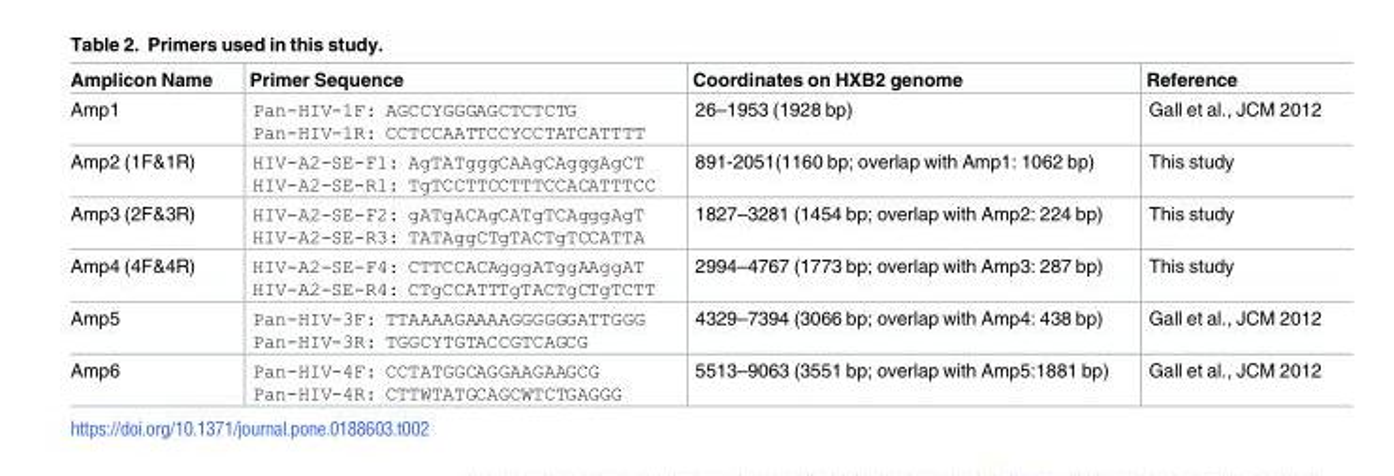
<table><thead><tr><td>Amplicon Name</td><td>Primer Sequence</td><td>Coordinates on HXB2 genome</td><td>Reference</td></tr></thead><tbody><tr><td>Amp1</td><td>Pan-HIV-1F: AGCCYGGGAGCTCTCTG Pan-HIV-1R: CCTCCAATTCCYCCTATCATTTT</td><td>26–1953 (1928 bp)</td><td>Gall et al., JCM 2012</td></tr><tr><td>Amp2 (1F&amp;1R)</td><td>HIV-A2-SE-F1: AgTATgggCAAgCAgggAgCT HIV-A2-SE-R1: TgTCCTTCCTTTCCACATTTCC</td><td>891-2051(1160 bp; overlap with Amp1: 1062 bp)</td><td>This study</td></tr><tr><td>Amp3 (2F&amp;3R)</td><td>HIV-A2-SE-F2: gATgACAgCATgTCAgggAgT HIV-A2-SE-R3: TATAggCTgTACTgTCCATTA</td><td>1827–3281 (1454 bp; overlap with Amp2: 224 bp)</td><td>This study</td></tr><tr><td>Amp4 (4F&amp;4R)</td><td>HIV-A2-SE-F4: CTTCCACAgggATggAAggAT HIV-A2-SE-R4: CTgCCATTTgTACTgCTgTCTT</td><td>2994–4767 (1773 bp; overlap with Amp3: 287 bp)</td><td>This study</td></tr><tr><td>Amp5</td><td>Pan-HIV-3F: TTAAAAGAAAAGGGGGGATTGGG Pan-HIV-3R: TGGCYTGTACCGTCAGCG</td><td>4329–7394 (3066 bp; overlap with Amp4: 438 bp)</td><td>Gall et al., JCM 2012</td></tr><tr><td>Amp6</td><td>Pan-HIV-4F: CCTATGGCAGGAAGAAGCG Pan-HIV-4R: CTTWTATGCAGCWTCTGAGGG</td><td>5513–9063 (3551 bp; overlap with Amp5:1881 bp)</td><td>Gall et al., JCM 2012</td></tr></tbody></table>